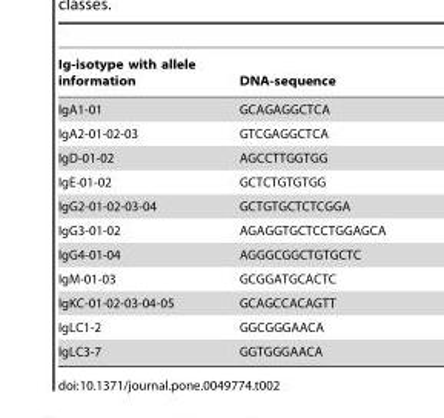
<table><thead><tr><td>Ig-isotype with allele information</td><td>DNA-sequence</td></tr></thead><tbody><tr><td>IgA1-01</td><td>GCAGAGGCTCA</td></tr><tr><td>IgA2-01-02-03</td><td>GTCGAGGCTCA</td></tr><tr><td>IgD-01-02</td><td>AGCCTTGGTGG</td></tr><tr><td>IgE-01-02</td><td>GCTCTGTGTGG</td></tr><tr><td>IgG2-01-02-03-04</td><td>GCTGTGCTCTCGGA</td></tr><tr><td>IgG3-01-02</td><td>AGAGGTGCTCCTGGAGCA</td></tr><tr><td>IgG4-01-04</td><td>AGGGCGGCTGTGCTC</td></tr><tr><td>IgM-01-03</td><td>GCGGATGCACTC</td></tr><tr><td>IgKC-01-02-03-04-05</td><td>GCAGCCACAGTT</td></tr><tr><td>IgLC1-2</td><td>GGCGGGAACA</td></tr><tr><td>IgLC3-7</td><td>GGTGGGAACA</td></tr></tbody></table>